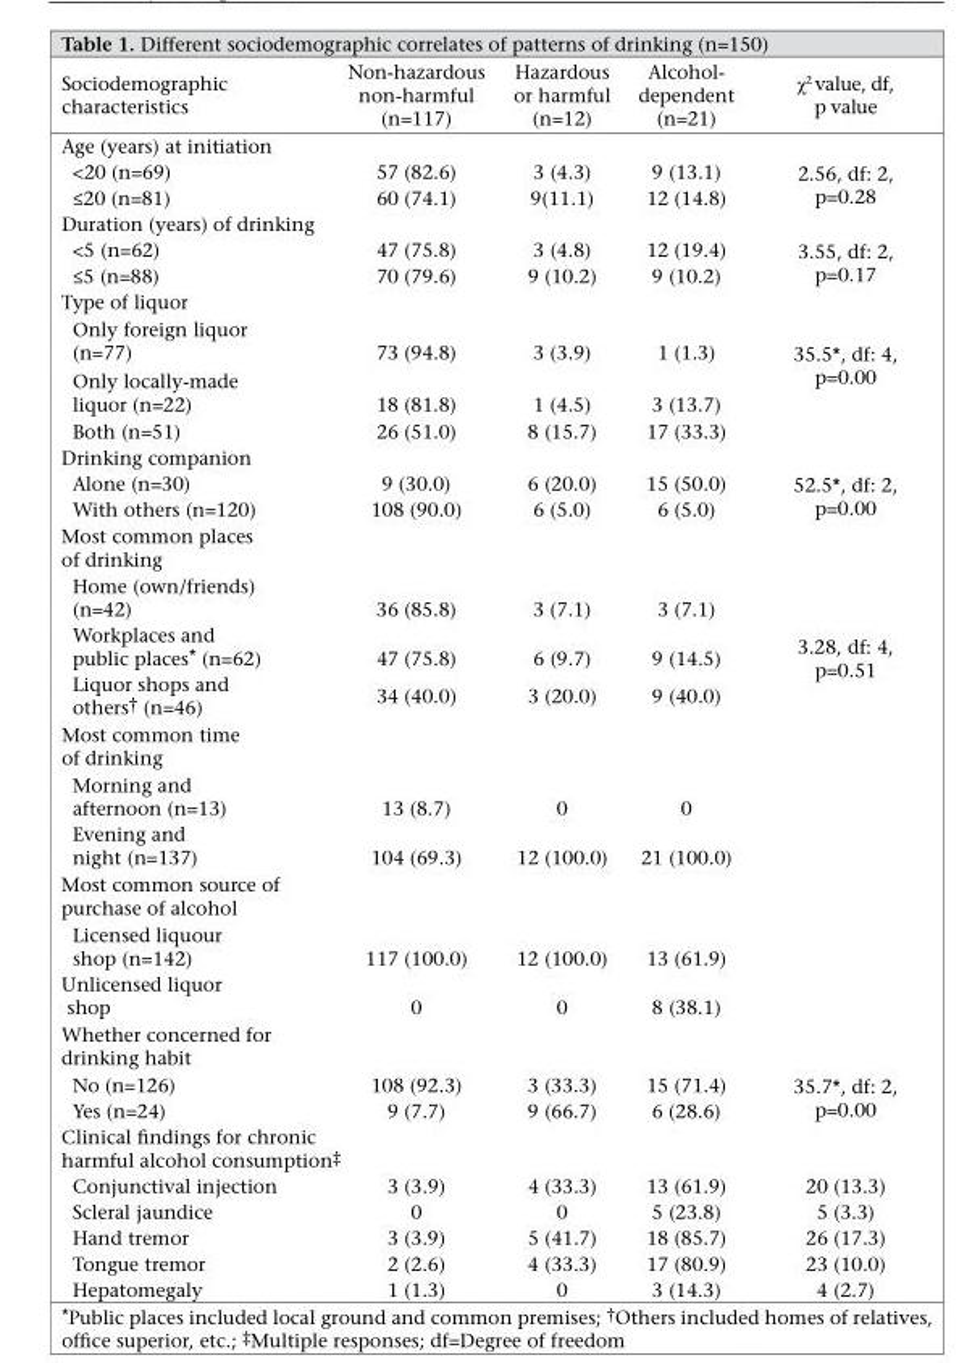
<table><thead><tr><td>Sociodemographic characteristics</td><td>Non-hazardous non-harmful (n=117)</td><td>Hazardous or harmful (n=12)</td><td>Alcohol- dependent (n=21)</td><td>χ<sup>2</sup> value, df, p value</td></tr></thead><tbody><tr><td colspan="5">Age (years) at initiation</td></tr><tr><td>&lt;20 (n=69)</td><td>57 (82.6)</td><td>3 (4.3)</td><td>9 (13.1)</td><td rowspan="2">2.56, df: 2, p=0.28</td></tr><tr><td>≤20 (n=81)</td><td>60 (74.1)</td><td>9(11.1)</td><td>12 (14.8)</td></tr><tr><td colspan="5">Duration (years) of drinking</td></tr><tr><td>&lt;5 (n=62)</td><td>47 (75.8)</td><td>3 (4.8)</td><td>12 (19.4)</td><td rowspan="2">3.55, df: 2, p=0.17</td></tr><tr><td>≤5 (n=88)</td><td>70 (79.6)</td><td>9 (10.2)</td><td>9 (10.2)</td></tr><tr><td colspan="5">Type of liquor</td></tr><tr><td>Only foreign liquor (n=77)</td><td>73 (94.8)</td><td>3 (3.9)</td><td>1 (1.3)</td><td rowspan="3">35.5*, df: 4, p=0.00</td></tr><tr><td>Only locally-made liquor (n=22)</td><td>18 (81.8)</td><td>1 (4.5)</td><td>3 (13.7)</td></tr><tr><td>Both (n=51)</td><td>26 (51.0)</td><td>8 (15.7)</td><td>17 (33.3)</td></tr><tr><td colspan="5">Drinking companion</td></tr><tr><td>Alone (n=30)</td><td>9 (30.0)</td><td>6 (20.0)</td><td>15 (50.0)</td><td rowspan="2">52.5*, df: 2, p=0.00</td></tr><tr><td>With others (n=120)</td><td>108 (90.0)</td><td>6 (5.0)</td><td>6 (5.0)</td></tr><tr><td colspan="5">Most common places of drinking</td></tr><tr><td>Home (own/friends) (n=42)</td><td>36 (85.8)</td><td>3 (7.1)</td><td>3 (7.1)</td><td rowspan="3">3.28, df: 4, p=0.51</td></tr><tr><td>Workplaces and public places* (n=62)</td><td>47 (75.8)</td><td>6 (9.7)</td><td>9 (14.5)</td></tr><tr><td>Liquor shops and others† (n=46)</td><td>34 (40.0)</td><td>3 (20.0)</td><td>9 (40.0)</td></tr><tr><td colspan="5">Most common time of drinking</td></tr><tr><td>Morning and afternoon (n=13)</td><td>13 (8.7)</td><td>0</td><td>0</td><td rowspan="2"></td></tr><tr><td>Evening and night (n=137)</td><td>104 (69.3)</td><td>12 (100.0)</td><td>21 (100.0)</td></tr><tr><td colspan="5">Most common source of purchase of alcohol</td></tr><tr><td>Licensed liquour shop (n=142)</td><td>117 (100.0)</td><td>12 (100.0)</td><td>13 (61.9)</td><td rowspan="2"></td></tr><tr><td>Unlicensed liquor shop</td><td>0</td><td>0</td><td>8 (38.1)</td></tr><tr><td colspan="5">Whether concerned for drinking habit</td></tr><tr><td>No (n=126)</td><td>108 (92.3)</td><td>3 (33.3)</td><td>15 (71.4)</td><td rowspan="2">35.7*, df: 2, p=0.00</td></tr><tr><td>Yes (n=24)</td><td>9 (7.7)</td><td>9 (66.7)</td><td>6 (28.6)</td></tr><tr><td colspan="5">Clinical findings for chronic harmful alcohol consumption‡</td></tr><tr><td>Conjunctival injection</td><td>3 (3.9)</td><td>4 (33.3)</td><td>13 (61.9)</td><td>20 (13.3)</td></tr><tr><td>Scleral jaundice</td><td>0</td><td>0</td><td>5 (23.8)</td><td>5 (3.3)</td></tr><tr><td>Hand tremor</td><td>3 (3.9)</td><td>5 (41.7)</td><td>18 (85.7)</td><td>26 (17.3)</td></tr><tr><td>Tongue tremor</td><td>2 (2.6)</td><td>4 (33.3)</td><td>17 (80.9)</td><td>23 (10.0)</td></tr><tr><td>Hepatomegaly</td><td>1 (1.3)</td><td>0</td><td>3 (14.3)</td><td>4 (2.7)</td></tr></tbody></table>